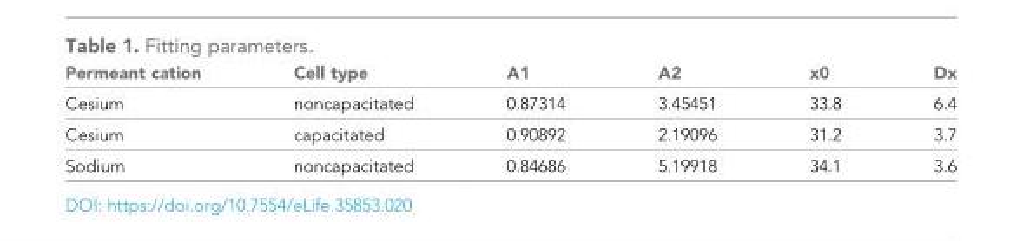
<table><thead><tr><td>Permeant cation</td><td>Cell type</td><td>A1</td><td>A2</td><td>x0</td><td>Dx</td></tr></thead><tbody><tr><td>Cesium</td><td>noncapacitated</td><td>0.87314</td><td>3.45451</td><td>33.8</td><td>6.4</td></tr><tr><td>Cesium</td><td>capacitated</td><td>0.90892</td><td>2.19096</td><td>31.2</td><td>3.7</td></tr><tr><td>Sodium</td><td>noncapacitated</td><td>0.84686</td><td>5.19918</td><td>34.1</td><td>3.6</td></tr></tbody></table>